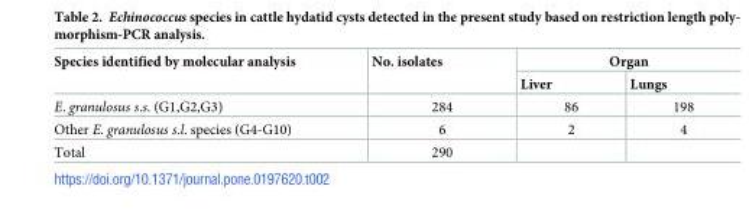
<table><thead><tr><td rowspan="2">Species identified by molecular analysis</td><td rowspan="2">No. isolates</td><td colspan="2">Organ</td></tr><tr><td>Liver</td><td>Lungs</td></tr></thead><tbody><tr><td>E. granulosus s.s. (G1,G2,G3)</td><td>284</td><td>86</td><td>198</td></tr><tr><td>Other E. granulosus s.l. species (G4-G10)</td><td>6</td><td>2</td><td>4</td></tr><tr><td>Total</td><td>290</td><td></td><td></td></tr></tbody></table>